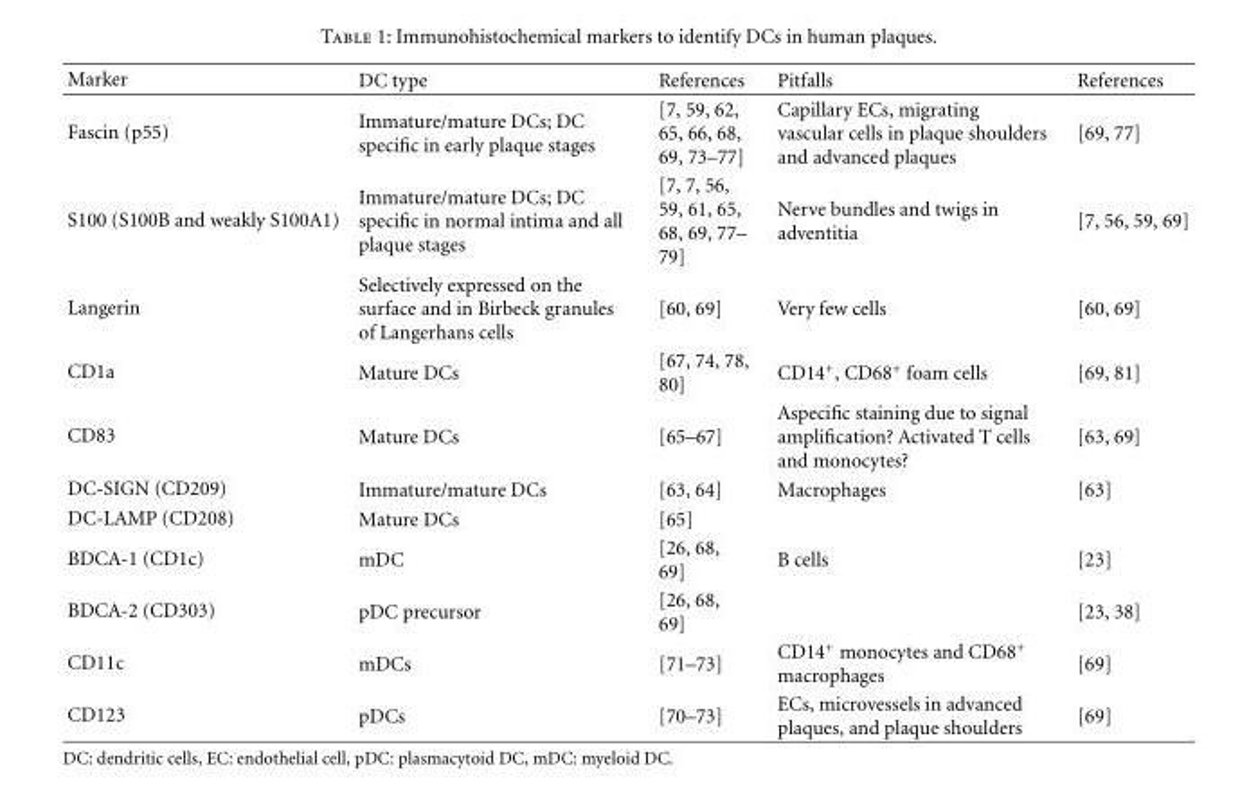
<table><thead><tr><td>Marker</td><td>DC type</td><td>References</td><td>Pitfalls</td><td>References</td></tr></thead><tbody><tr><td>Fascin (p55)</td><td>Immature/mature DCs; DC specific in early plaque stages</td><td>[7, 59, 62, 65, 66, 68, 69, 73–77]</td><td>Capillary ECs, migrating vascular cells in plaque shoulders and advanced plaques</td><td>[69, 77]</td></tr><tr><td>S100 (S100B and weakly S100A1)</td><td>Immature/mature DCs; DC specific in normal intima and all plaque stages</td><td>[7, 7, 56, 59, 61, 65, 68, 69, 77– 79]</td><td>Nerve bundles and twigs in adventitia</td><td>[7, 56, 59, 69]</td></tr><tr><td>Langerin</td><td>Selectively expressed on the surface and in Birbeck granules of Langerhans cells</td><td>[60, 69]</td><td>Very few cells</td><td>[60, 69]</td></tr><tr><td>CD1a</td><td>Mature DCs</td><td>[67, 74, 78, 80]</td><td>CD14<sup>+</sup>, CD68<sup>+</sup> foam cells</td><td>[69, 81]</td></tr><tr><td>CD83</td><td>Mature DCs</td><td>[65–67]</td><td>Aspecific staining due to signal amplification? Activated T cells and monocytes?</td><td>[63, 69]</td></tr><tr><td>DC-SIGN (CD209)</td><td>Immature/mature DCs</td><td>[63, 64]</td><td>Macrophages</td><td>[63]</td></tr><tr><td>DC-LAMP (CD208)</td><td>Mature DCs</td><td>[65]</td><td></td><td></td></tr><tr><td>BDCA-1 (CD1c)</td><td>mDC</td><td>[26, 68, 69]</td><td>B cells</td><td>[23]</td></tr><tr><td>BDCA-2 (CD303)</td><td>pDC precursor</td><td>[26, 68, 69]</td><td></td><td>[23, 38]</td></tr><tr><td>CD11c</td><td>mDCs</td><td>[71–73]</td><td>CD14<sup>+</sup> monocytes and CD68<sup>+</sup> macrophages</td><td>[69]</td></tr><tr><td>CD123</td><td>pDCs</td><td>[70–73]</td><td>ECs, microvessels in advanced plaques, and plaque shoulders</td><td>[69]</td></tr></tbody></table>